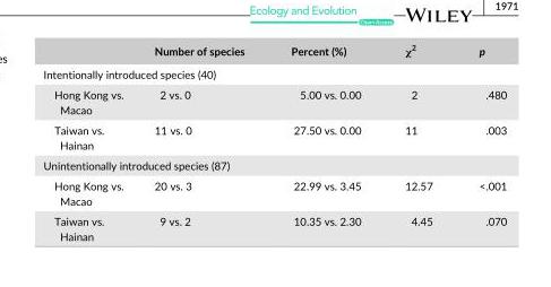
<table><thead><tr><td></td><td>Number of species</td><td>Percent (%)</td><td>χ<sup>2</sup></td><td>p</td></tr></thead><tbody><tr><td colspan="5">Intentionally introduced species (40)</td></tr><tr><td>Hong Kong vs. Macao</td><td>2 vs. 0</td><td>5.00 vs. 0.00</td><td>2</td><td>.480</td></tr><tr><td>Taiwan vs. Hainan</td><td>11 vs. 0</td><td>27.50 vs. 0.00</td><td>11</td><td>.003</td></tr><tr><td colspan="5">Unintentionally introduced species (87)</td></tr><tr><td>Hong Kong vs. Macao</td><td>20 vs. 3</td><td>22.99 vs. 3.45</td><td>12.57</td><td>&lt;.001</td></tr><tr><td>Taiwan vs. Hainan</td><td>9 vs. 2</td><td>10.35 vs. 2.30</td><td>4.45</td><td>.070</td></tr></tbody></table>